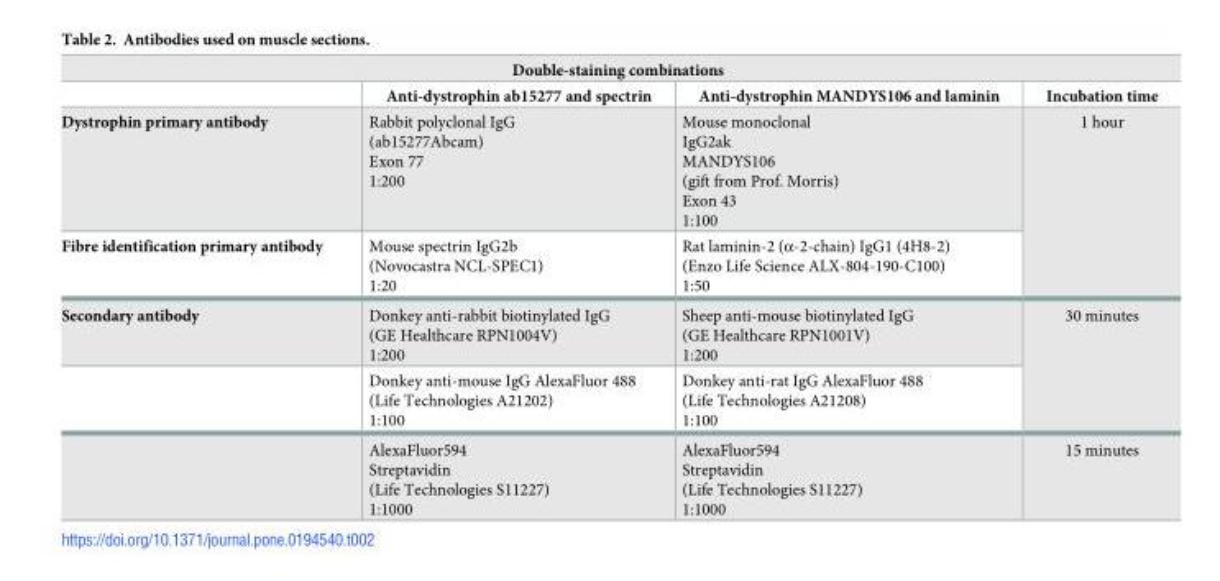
<table><thead><tr><td colspan="4">Double-staining combinations</td></tr><tr><td></td><td>Anti-dystrophin ab15277 and spectrin</td><td>Anti-dystrophin MANDYS106 and laminin</td><td>Incubation time</td></tr></thead><tbody><tr><td>Dystrophin primary antibody</td><td>Rabbit polyclonal IgG (ab15277Abcam) Exon 77 1:200</td><td>Mouse monoclonal IgG2ak MANDYS106 (gift from Prof. Morris) Exon 43 1:100</td><td rowspan="2">1 hour</td></tr><tr><td>Fibre identification primary antibody</td><td>Mouse spectrin IgG2b (Novocastra NCL-SPEC1) 1:20</td><td>Rat laminin-2 (α-2-chain) IgG1 (4H8-2) (Enzo Life Science ALX-804-190-C100) 1:50</td></tr><tr><td rowspan="3">Secondary antibody</td><td>Donkey anti-rabbit biotinylated IgG (GE Healthcare RPN1004V) 1:200</td><td>Sheep anti-mouse biotinylated IgG (GE Healthcare RPN1001V) 1:200</td><td rowspan="2">30 minutes</td></tr><tr><td>Donkey anti-mouse IgG AlexaFluor 488 (Life Technologies A21202) 1:100</td><td>Donkey anti-rat IgG AlexaFluor 488 (Life Technologies A21208) 1:100</td></tr><tr><td>AlexaFluor594 Streptavidin (Life Technologies S11227) 1:1000</td><td>AlexaFluor594 Streptavidin (Life Technologies S11227) 1:1000</td><td>15 minutes</td></tr></tbody></table>